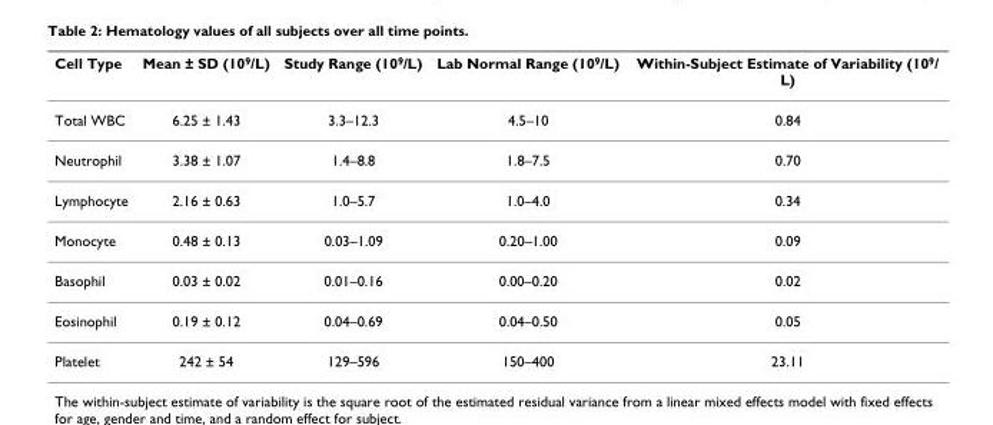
<table><thead><tr><td>Cell Type</td><td>Mean ± SD (10<sup>9</sup>/L)</td><td>Study Range (10<sup>9</sup>/L)</td><td>Lab Normal Range (10<sup>9</sup>/L)</td><td>Within-Subject Estimate of Variability (10<sup>9</sup>/ L)</td></tr></thead><tbody><tr><td>Total WBC</td><td>6.25 ± 1.43</td><td>3.3–12.3</td><td>4.5–10</td><td>0.84</td></tr><tr><td>Neutrophil</td><td>3.38 ± 1.07</td><td>1.4–8.8</td><td>1.8–7.5</td><td>0.70</td></tr><tr><td>Lymphocyte</td><td>2.16 ± 0.63</td><td>1.0–5.7</td><td>1.0–4.0</td><td>0.34</td></tr><tr><td>Monocyte</td><td>0.48 ± 0.13</td><td>0.03–1.09</td><td>0.20–1.00</td><td>0.09</td></tr><tr><td>Basophil</td><td>0.03 ± 0.02</td><td>0.01–0.16</td><td>0.00–0.20</td><td>0.02</td></tr><tr><td>Eosinophil</td><td>0.19 ± 0.12</td><td>0.04–0.69</td><td>0.04–0.50</td><td>0.05</td></tr><tr><td>Platelet</td><td>242 ± 54</td><td>129–596</td><td>150–400</td><td>23.11</td></tr></tbody></table>